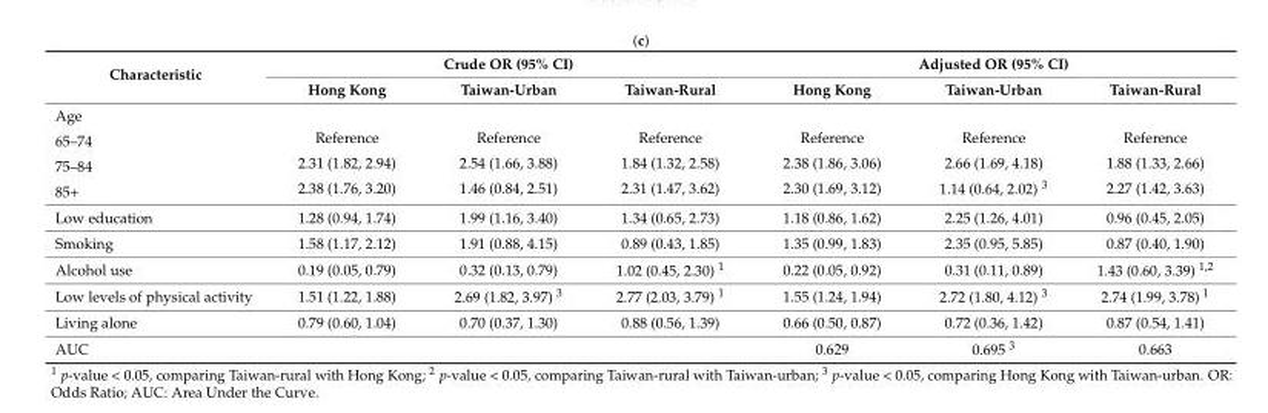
<table><thead><tr><td rowspan="2">Characteristic</td><td colspan="3">Crude OR (95% CI)</td><td colspan="3">Adjusted OR (95% CI)</td></tr><tr><td>Hong Kong</td><td>Taiwan-Urban</td><td>Taiwan-Rural</td><td>Hong Kong</td><td>Taiwan-Urban</td><td>Taiwan-Rural</td></tr></thead><tbody><tr><td colspan="7">Age</td></tr><tr><td>65–74</td><td>Reference</td><td>Reference</td><td>Reference</td><td>Reference</td><td>Reference</td><td>Reference</td></tr><tr><td>75–84</td><td>2.31 (1.82, 2.94)</td><td>2.54 (1.66, 3.88)</td><td>1.84 (1.32, 2.58)</td><td>2.38 (1.86, 3.06)</td><td>2.66 (1.69, 4.18)</td><td>1.88 (1.33, 2.66)</td></tr><tr><td>85+</td><td>2.38 (1.76, 3.20)</td><td>1.46 (0.84, 2.51)</td><td>2.31 (1.47, 3.62)</td><td>2.30 (1.69, 3.12)</td><td>1.14 (0.64, 2.02) <sup>3</sup></td><td>2.27 (1.42, 3.63)</td></tr><tr><td>Low education</td><td>1.28 (0.94, 1.74)</td><td>1.99 (1.16, 3.40)</td><td>1.34 (0.65, 2.73)</td><td>1.18 (0.86, 1.62)</td><td>2.25 (1.26, 4.01)</td><td>0.96 (0.45, 2.05)</td></tr><tr><td>Smoking</td><td>1.58 (1.17, 2.12)</td><td>1.91 (0.88, 4.15)</td><td>0.89 (0.43, 1.85)</td><td>1.35 (0.99, 1.83)</td><td>2.35 (0.95, 5.85)</td><td>0.87 (0.40, 1.90)</td></tr><tr><td>Alcohol use</td><td>0.19 (0.05, 0.79)</td><td>0.32 (0.13, 0.79)</td><td>1.02 (0.45, 2.30) <sup>1</sup></td><td>0.22 (0.05, 0.92)</td><td>0.31 (0.11, 0.89)</td><td>1.43 (0.60, 3.39) <sup>1,2</sup></td></tr><tr><td>Low levels of physical activity</td><td>1.51 (1.22, 1.88)</td><td>2.69 (1.82, 3.97) <sup>3</sup></td><td>2.77 (2.03, 3.79) <sup>1</sup></td><td>1.55 (1.24, 1.94)</td><td>2.72 (1.80, 4.12) <sup>3</sup></td><td>2.74 (1.99, 3.78) <sup>1</sup></td></tr><tr><td>Living alone</td><td>0.79 (0.60, 1.04)</td><td>0.70 (0.37, 1.30)</td><td>0.88 (0.56, 1.39)</td><td>0.66 (0.50, 0.87)</td><td>0.72 (0.36, 1.42)</td><td>0.87 (0.54, 1.41)</td></tr><tr><td>AUC</td><td></td><td></td><td></td><td>0.629</td><td>0.695 <sup>3</sup></td><td>0.663</td></tr></tbody></table>